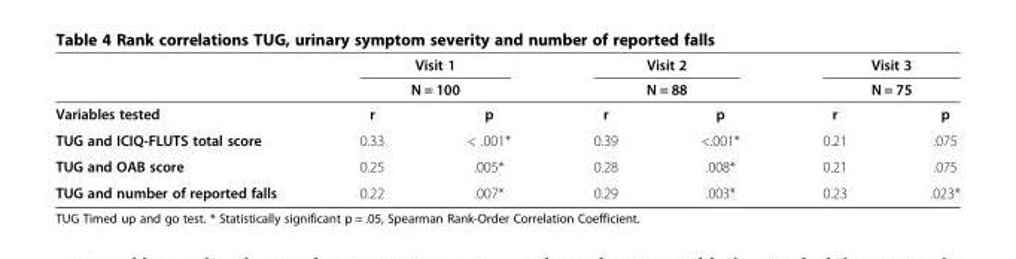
<table><thead><tr><td rowspan="3">Variables tested</td><td rowspan="2" colspan="2">Visit 1 N = 100</td><td rowspan="2" colspan="2">Visit 2 N = 88</td><td rowspan="2" colspan="2">Visit 3 N = 75</td></tr><tr></tr><tr><td>r</td><td>p</td><td>r</td><td>p</td><td>r</td><td>p</td></tr></thead><tbody><tr><td>TUG and ICIQ-FLUTS total score</td><td>0.33</td><td>&lt; .001*</td><td>0.39</td><td>&lt;.001*</td><td>0.21</td><td>.075</td></tr><tr><td>TUG and OAB score</td><td>0.25</td><td>.005*</td><td>0.28</td><td>.008*</td><td>0.21</td><td>.075</td></tr><tr><td>TUG and number of reported falls</td><td>0.22</td><td>.007*</td><td>0.29</td><td>.003*</td><td>0.23</td><td>.023*</td></tr></tbody></table>